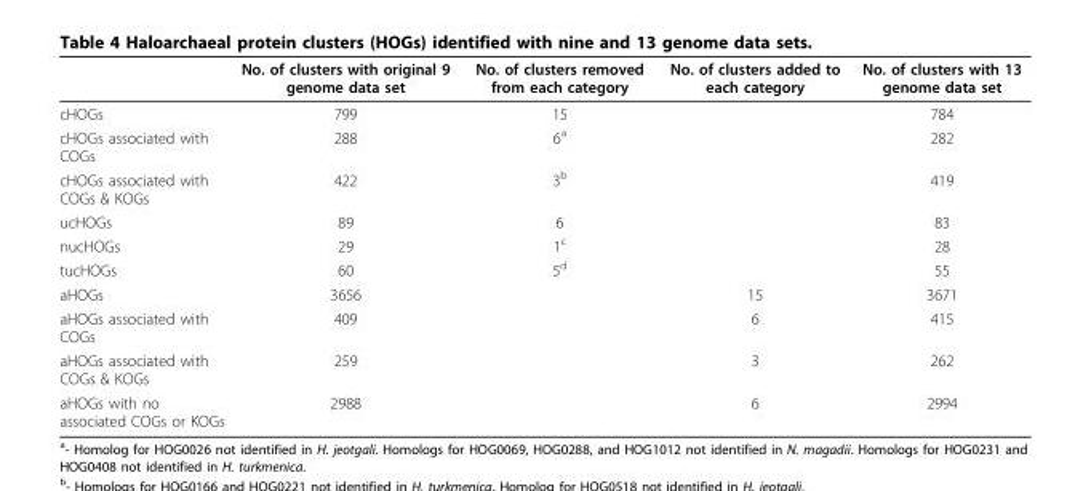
<table><thead><tr><td></td><td>No. of clusters with original 9 genome data set</td><td>No. of clusters removed from each category</td><td>No. of clusters added to each category</td><td>No. of clusters with 13 genome data set</td></tr></thead><tbody><tr><td>cHOGs</td><td>799</td><td>15</td><td></td><td>784</td></tr><tr><td>cHOGs associated with COGs</td><td>288</td><td>6<sup>a</sup></td><td></td><td>282</td></tr><tr><td>cHOGs associated with COGs &amp; KOGs</td><td>422</td><td>3<sup>b</sup></td><td></td><td>419</td></tr><tr><td>ucHOGs</td><td>89</td><td>6</td><td></td><td>83</td></tr><tr><td>nucHOGs</td><td>29</td><td>1<sup>c</sup></td><td></td><td>28</td></tr><tr><td>tucHOGs</td><td>60</td><td>5<sup>d</sup></td><td></td><td>55</td></tr><tr><td>aHOGs</td><td>3656</td><td></td><td>15</td><td>3671</td></tr><tr><td>aHOGs associated with COGs</td><td>409</td><td></td><td>6</td><td>415</td></tr><tr><td>aHOGs associated with COGs &amp; KOGs</td><td>259</td><td></td><td>3</td><td>262</td></tr><tr><td>aHOGs with no associated COGs or KOGs</td><td>2988</td><td></td><td>6</td><td>2994</td></tr></tbody></table>